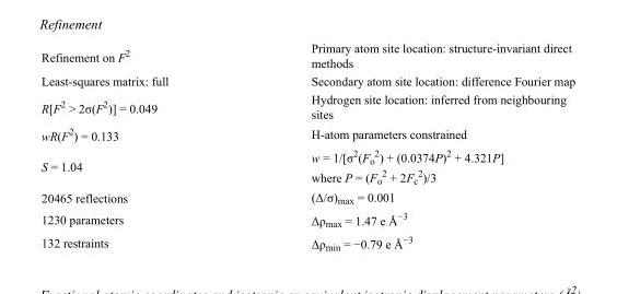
<table><tbody><tr><td>Refinement on F<sup>2</sup></td><td>Primary atom site location: structure-invariant direct methods</td></tr><tr><td>Least-squares matrix: full</td><td>Secondary atom site location: difference Fourier map</td></tr><tr><td>R[F<sup>2</sup> &gt; 2σ(F<sup>2</sup>)] = 0.049</td><td>Hydrogen site location: inferred from neighbouring sites</td></tr><tr><td>wR(F<sup>2</sup>) = 0.133</td><td>H-atom parameters constrained</td></tr><tr><td>S = 1.04</td><td>w = 1/[σ<sup>2</sup>(F<sub>o</sub> <sup>2</sup>) + (0.0374P)<sup>2</sup> + 4.321P] where P = (F<sub>o</sub> <sup>2</sup> + 2F<sub>c</sub> <sup>2</sup>)/3</td></tr><tr><td>20465 reflections</td><td>(Δ/σ)<sub>max</sub> = 0.001</td></tr><tr><td>1230 parameters</td><td>Δρ<sub>max</sub> = 1.47 e Å<sup>−3</sup></td></tr><tr><td>132 restraints</td><td>Δρ<sub>min</sub> = −0.79 e Å<sup>−3</sup></td></tr></tbody></table>